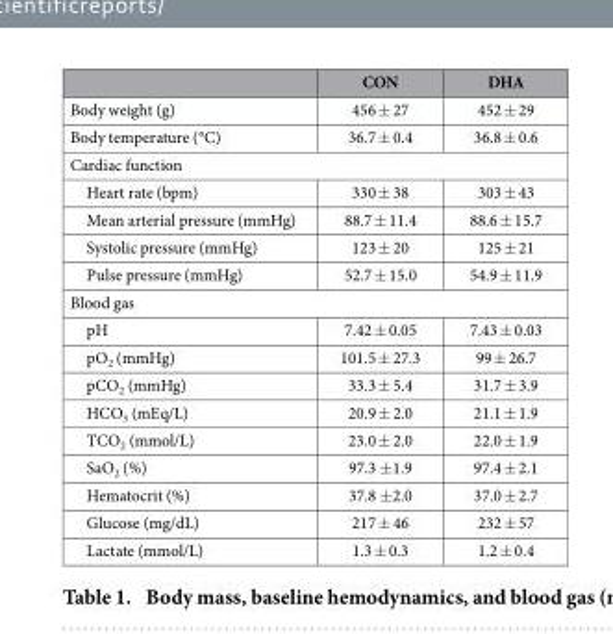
<table><thead><tr><td></td><td>CON</td><td>DHA</td></tr></thead><tbody><tr><td>Body weight (g)</td><td>456 ± 27</td><td>452 ± 29</td></tr><tr><td>Body temperature (°C)</td><td>36.7 ± 0.4</td><td>36.8 ± 0.6</td></tr><tr><td colspan="3">Cardiac function</td></tr><tr><td>Heart rate (bpm)</td><td>330 ± 38</td><td>303 ± 43</td></tr><tr><td>Mean arterial pressure (mmHg)</td><td>88.7 ± 11.4</td><td>88.6 ± 15.7</td></tr><tr><td>Systolic pressure (mmHg)</td><td>123 ± 20</td><td>125 ± 21</td></tr><tr><td>Pulse pressure (mmHg)</td><td>52.7 ± 15.0</td><td>54.9 ± 11.9</td></tr><tr><td colspan="3">Blood gas</td></tr><tr><td>pH</td><td>7.42 ± 0.05</td><td>7.43 ± 0.03</td></tr><tr><td>pO<sub>2</sub> (mmHg)</td><td>101.5 ± 27.3</td><td>99 ± 26.7</td></tr><tr><td>pCO<sub>2</sub> (mmHg)</td><td>33.3 ± 5.4</td><td>31.7 ± 3.9</td></tr><tr><td>HCO<sub>3</sub> (mEq/L)</td><td>20.9 ± 2.0</td><td>21.1 ± 1.9</td></tr><tr><td>TCO<sub>2</sub> (mmol/L)</td><td>23.0 ± 2.0</td><td>22.0 ± 1.9</td></tr><tr><td>SaO<sub>2</sub> (%)</td><td>97.3 ± 1.9</td><td>97.4 ± 2.1</td></tr><tr><td>Hematocrit (%)</td><td>37.8 ± 2.0</td><td>37.0 ± 2.7</td></tr><tr><td>Glucose (mg/dL)</td><td>217 ± 46</td><td>232 ± 57</td></tr><tr><td>Lactate (mmol/L)</td><td>1.3 ± 0.3</td><td>1.2 ± 0.4</td></tr></tbody></table>